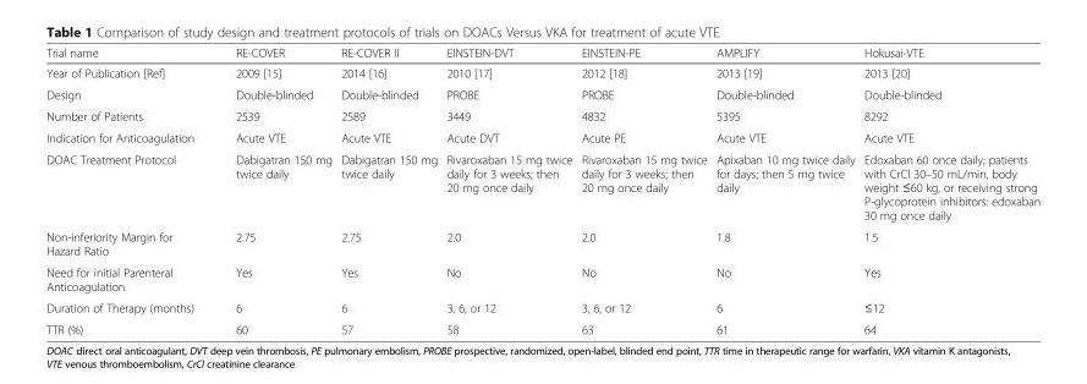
<table><thead><tr><td>Trial name</td><td>RE-COVER</td><td>RE-COVER II</td><td>EINSTEIN-DVT</td><td>EINSTEIN-PE</td><td>AMPLIFY</td><td>Hokusai-VTE</td></tr></thead><tbody><tr><td>Year of Publication [Ref]</td><td>2009 [15]</td><td>2014 [16]</td><td>2010 [17]</td><td>2012 [18]</td><td>2013 [19]</td><td>2013 [20]</td></tr><tr><td>Design</td><td>Double-blinded</td><td>Double-blinded</td><td>PROBE</td><td>PROBE</td><td>Double-blinded</td><td>Double-blinded</td></tr><tr><td>Number of Patients</td><td>2539</td><td>2589</td><td>3449</td><td>4832</td><td>5395</td><td>8292</td></tr><tr><td>Indication for Anticoagulation</td><td>Acute VTE</td><td>Acute VTE</td><td>Acute DVT</td><td>Acute PE</td><td>Acute VTE</td><td>Acute VTE</td></tr><tr><td>DOAC Treatment Protocol</td><td>Dabigatran 150 mg twice daily</td><td>Dabigatran 150 mg twice daily</td><td>Rivaroxaban 15 mg twice daily for 3 weeks; then 20 mg once daily</td><td>Rivaroxaban 15 mg twice daily for 3 weeks; then 20 mg once daily</td><td>Apixaban 10 mg twice daily for days; then 5 mg twice daily</td><td>Edoxaban 60 once daily; patients with CrCl 30–50 mL/min, body weight ≤60 kg, or receiving strong P-glycoprotein inhibitors: edoxaban 30 mg once daily</td></tr><tr><td>Non-inferiority Margin for Hazard Ratio</td><td>2.75</td><td>2.75</td><td>2.0</td><td>2.0</td><td>1.8</td><td>1.5</td></tr><tr><td>Need for initial Parenteral Anticoagulation</td><td>Yes</td><td>Yes</td><td>No</td><td>No</td><td>No</td><td>Yes</td></tr><tr><td>Duration of Therapy (months)</td><td>6</td><td>6</td><td>3, 6, or 12</td><td>3, 6, or 12</td><td>6</td><td>≤12</td></tr><tr><td>TTR (%)</td><td>60</td><td>57</td><td>58</td><td>63</td><td>61</td><td>64</td></tr></tbody></table>